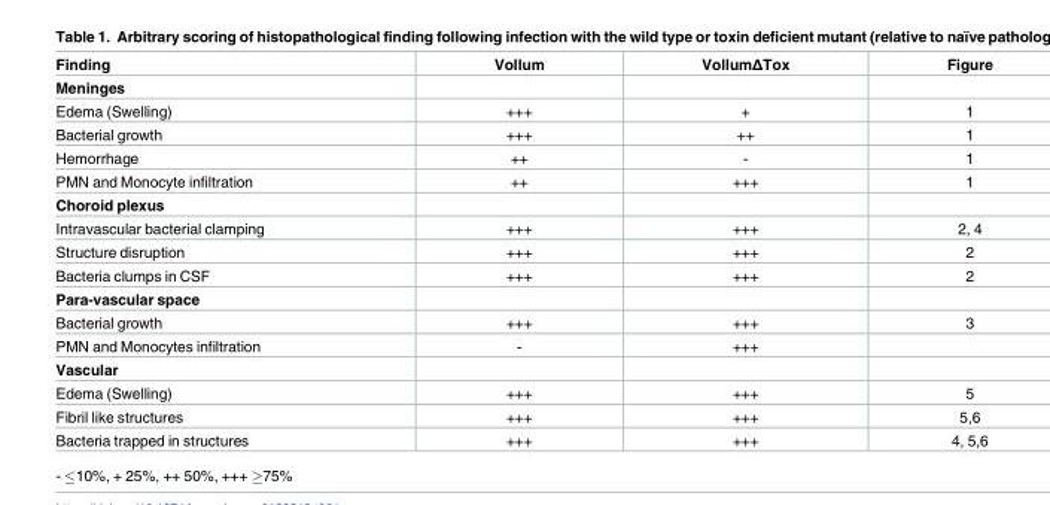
<table><thead><tr><td>Finding</td><td>Vollum</td><td>VollumΔTox</td><td>Figure</td></tr></thead><tbody><tr><td colspan="4">Meninges</td></tr><tr><td>Edema (Swelling)</td><td>+++</td><td>+</td><td>1</td></tr><tr><td>Bacterial growth</td><td>+++</td><td>++</td><td>1</td></tr><tr><td>Hemorrhage</td><td>++</td><td>-</td><td>1</td></tr><tr><td>PMN and Monocyte infiltration</td><td>++</td><td>+++</td><td>1</td></tr><tr><td colspan="4">Choroid plexus</td></tr><tr><td>Intravascular bacterial clamping</td><td>+++</td><td>+++</td><td>2, 4</td></tr><tr><td>Structure disruption</td><td>+++</td><td>+++</td><td>2</td></tr><tr><td>Bacteria clumps in CSF</td><td>+++</td><td>+++</td><td>2</td></tr><tr><td colspan="4">Para-vascular space</td></tr><tr><td>Bacterial growth</td><td>+++</td><td>+++</td><td>3</td></tr><tr><td>PMN and Monocytes infiltration</td><td>-</td><td>+++</td><td></td></tr><tr><td colspan="4">Vascular</td></tr><tr><td>Edema (Swelling)</td><td>+++</td><td>+++</td><td>5</td></tr><tr><td>Fibril like structures</td><td>+++</td><td>+++</td><td>5,6</td></tr><tr><td>Bacteria trapped in structures</td><td>+++</td><td>+++</td><td>4, 5,6</td></tr></tbody></table>